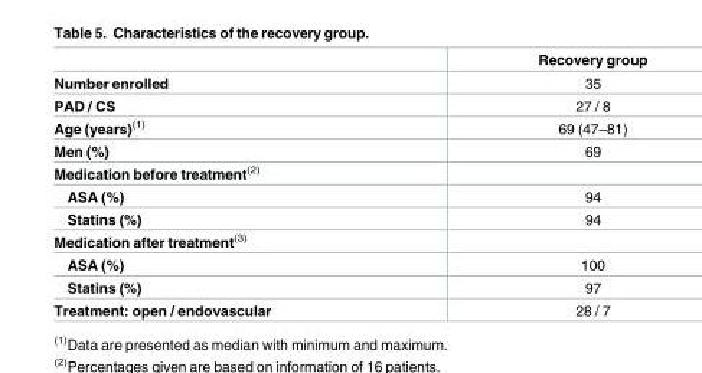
<table><thead><tr><td></td><td>Recovery group</td></tr></thead><tbody><tr><td>Number enrolled</td><td>35</td></tr><tr><td>PAD / CS</td><td>27 / 8</td></tr><tr><td>Age (years)<sup>(1)</sup></td><td>69 (47–81)</td></tr><tr><td>Men (%)</td><td>69</td></tr><tr><td colspan="2">Medication before treatment<sup>(2)</sup></td></tr><tr><td>ASA (%)</td><td>94</td></tr><tr><td>Statins (%)</td><td>94</td></tr><tr><td colspan="2">Medication after treatment<sup>(3)</sup></td></tr><tr><td>ASA (%)</td><td>100</td></tr><tr><td>Statins (%)</td><td>97</td></tr><tr><td>Treatment: open / endovascular</td><td>28 / 7</td></tr></tbody></table>